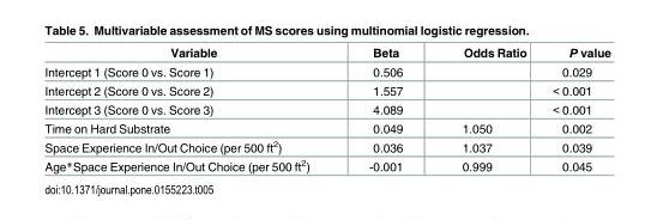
<table><thead><tr><td>Variable</td><td>Beta</td><td>Odds Ratio</td><td>P value</td></tr></thead><tbody><tr><td>Intercept 1 (Score 0 vs. Score 1)</td><td>0.506</td><td></td><td>0.029</td></tr><tr><td>Intercept 2 (Score 0 vs. Score 2)</td><td>1.557</td><td></td><td>&lt; 0.001</td></tr><tr><td>Intercept 3 (Score 0 vs. Score 3)</td><td>4.089</td><td></td><td>&lt; 0.001</td></tr><tr><td>Time on Hard Substrate</td><td>0.049</td><td>1.050</td><td>0.002</td></tr><tr><td>Space Experience In/Out Choice (per 500 ft<sup>2</sup>)</td><td>0.036</td><td>1.037</td><td>0.039</td></tr><tr><td>Age*Space Experience In/Out Choice (per 500 ft<sup>2</sup>)</td><td>-0.001</td><td>0.999</td><td>0.045</td></tr></tbody></table>